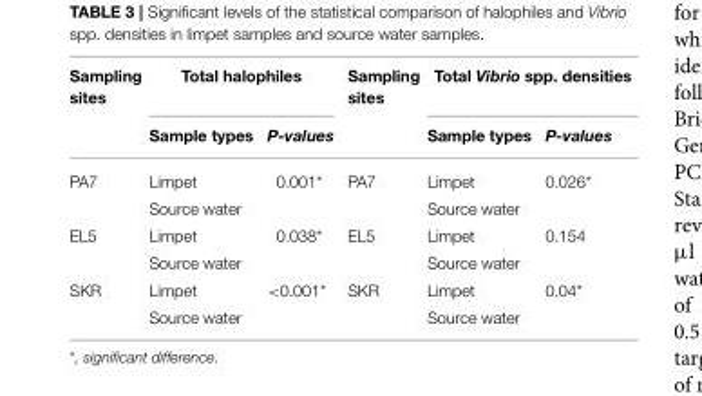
<table><thead><tr><td rowspan="2">Sampling sites</td><td colspan="2">Total halophiles</td><td rowspan="2">Sampling sites</td><td colspan="2">Total Vibrio spp. densities</td></tr><tr><td>Sample types</td><td>P-values</td><td>Sample types</td><td>P-values</td></tr></thead><tbody><tr><td rowspan="2">PA7</td><td>Limpet</td><td>0.001*</td><td>PA7</td><td>Limpet</td><td>0.026*</td></tr><tr><td>Source water</td><td></td><td></td><td>Source water</td><td></td></tr><tr><td rowspan="2">EL5</td><td>Limpet</td><td>0.038*</td><td>EL5</td><td>Limpet</td><td>0.154</td></tr><tr><td>Source water</td><td></td><td></td><td>Source water</td><td></td></tr><tr><td rowspan="2">SKR</td><td>Limpet</td><td>&lt;0.001*</td><td>SKR</td><td>Limpet</td><td>0.04*</td></tr><tr><td>Source water</td><td></td><td></td><td>Source water</td><td></td></tr></tbody></table>